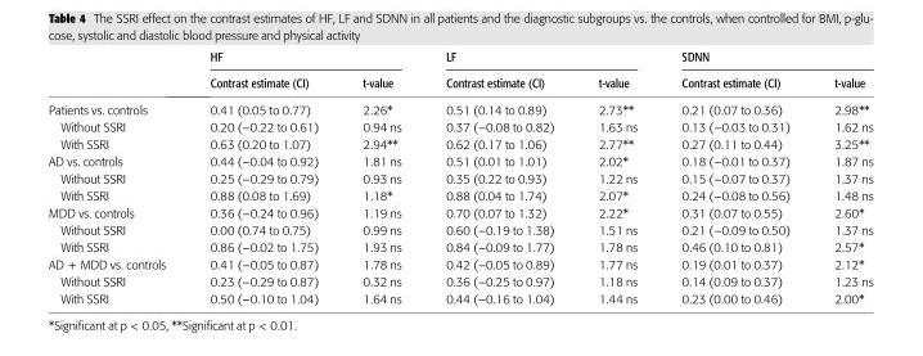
<table><thead><tr><td rowspan="2"></td><td colspan="2">HF</td><td colspan="2">LF</td><td colspan="2">SDNN</td></tr><tr><td>Contrast estimate (CI)</td><td>t-value</td><td>Contrast estimate (CI)</td><td>t-value</td><td>Contrast estimate (CI)</td><td>t-value</td></tr></thead><tbody><tr><td>Patients vs. controls</td><td>0.41 (0.05 to 0.77)</td><td>2.26*</td><td>0.51 (0.14 to 0.89)</td><td>2.73**</td><td>0.21 (0.07 to 0.36)</td><td>2.98**</td></tr><tr><td>Without SSRI</td><td>0.20 (−0.22 to 0.61)</td><td>0.94 ns</td><td>0.37 (−0.08 to 0.82)</td><td>1.63 ns</td><td>0.13 (−0.03 to 0.31)</td><td>1.62 ns</td></tr><tr><td>With SSRI</td><td>0.63 (0.20 to 1.07)</td><td>2.94**</td><td>0.62 (0.17 to 1.06)</td><td>2.77**</td><td>0.27 (0.11 to 0.44)</td><td>3.25**</td></tr><tr><td>AD vs. controls</td><td>0.44 (−0.04 to 0.92)</td><td>1.81 ns</td><td>0.51 (0.01 to 1.01)</td><td>2.02*</td><td>0.18 (−0.01 to 0.37)</td><td>1.87 ns</td></tr><tr><td>Without SSRI</td><td>0.25 (−0.29 to 0.79)</td><td>0.93 ns</td><td>0.35 (0.22 to 0.93)</td><td>1.22 ns</td><td>0.15 (−0.07 to 0.37)</td><td>1.37 ns</td></tr><tr><td>With SSRI</td><td>0.88 (0.08 to 1.69)</td><td>1.18*</td><td>0.88 (0.04 to 1.74)</td><td>2.07*</td><td>0.24 (−0.08 to 0.56)</td><td>1.48 ns</td></tr><tr><td>MDD vs. controls</td><td>0.36 (−0.24 to 0.96)</td><td>1.19 ns</td><td>0.70 (0.07 to 1.32)</td><td>2.22*</td><td>0.31 (0.07 to 0.55)</td><td>2.60*</td></tr><tr><td>Without SSRI</td><td>0.00 (0.74 to 0.75)</td><td>0.99 ns</td><td>0.60 (−0.19 to 1.38)</td><td>1.51 ns</td><td>0.21 (−0.09 to 0.50)</td><td>1.37 ns</td></tr><tr><td>With SSRI</td><td>0.86 (−0.02 to 1.75)</td><td>1.93 ns</td><td>0.84 (−0.09 to 1.77)</td><td>1.78 ns</td><td>0.46 (0.10 to 0.81)</td><td>2.57*</td></tr><tr><td>AD + MDD vs. controls</td><td>0.41 (−0.05 to 0.87)</td><td>1.78 ns</td><td>0.42 (−0.05 to 0.89)</td><td>1.77 ns</td><td>0.19 (0.01 to 0.37)</td><td>2.12*</td></tr><tr><td>Without SSRI</td><td>0.23 (−0.29 to 0.87)</td><td>0.32 ns</td><td>0.36 (−0.25 to 0.97)</td><td>1.18 ns</td><td>0.14 (0.09 to 0.37)</td><td>1.23 ns</td></tr><tr><td>With SSRI</td><td>0.50 (−0.10 to 1.04)</td><td>1.64 ns</td><td>0.44 (−0.16 to 1.04)</td><td>1.44 ns</td><td>0.23 (0.00 to 0.46)</td><td>2.00*</td></tr></tbody></table>